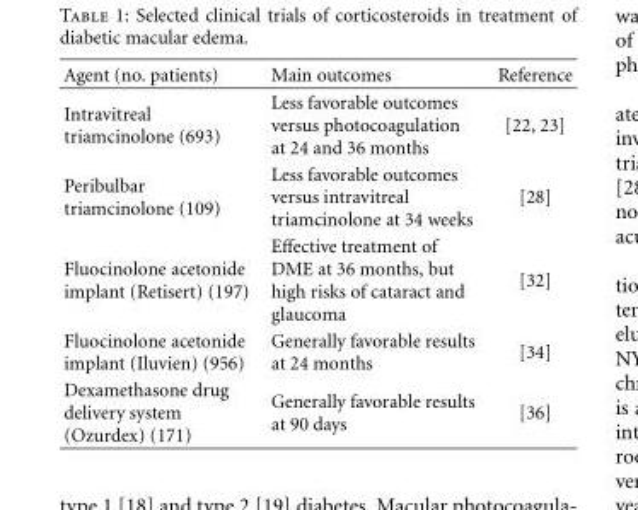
<table><thead><tr><td>Agent (no. patients)</td><td>Main outcomes</td><td>Reference</td></tr></thead><tbody><tr><td>Intravitreal triamcinolone (693)</td><td>Less favorable outcomes versus photocoagulation at 24 and 36 months</td><td>[22, 23]</td></tr><tr><td>Peribulbar triamcinolone (109)</td><td>Less favorable outcomes versus intravitreal triamcinolone at 34 weeks</td><td>[28]</td></tr><tr><td>Fluocinolone acetonide implant (Retisert) (197)</td><td>Effective treatment of DME at 36 months, but high risks of cataract and glaucoma</td><td>[32]</td></tr><tr><td>Fluocinolone acetonide implant (Iluvien) (956)</td><td>Generally favorable results at 24 months</td><td>[34]</td></tr><tr><td>Dexamethasone drug delivery system (Ozurdex) (171)</td><td>Generally favorable results at 90 days</td><td>[36]</td></tr></tbody></table>